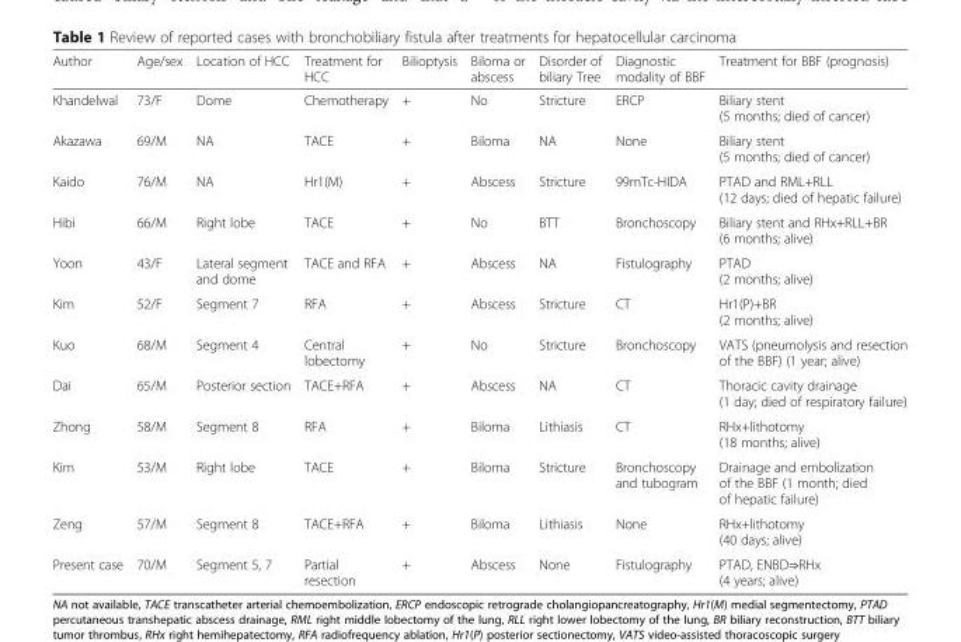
<table><thead><tr><td>Author</td><td>Age/sex</td><td>Location of HCC</td><td>Treatment for HCC</td><td>Bilioptysis</td><td>Biloma or abscess</td><td>Disorder of biliary Tree</td><td>Diagnostic modality of BBF</td><td>Treatment for BBF (prognosis)</td></tr></thead><tbody><tr><td>Khandelwal</td><td>73/F</td><td>Dome</td><td>Chemotherapy</td><td>+</td><td>No</td><td>Stricture</td><td>ERCP</td><td>Biliary stent (5 months; died of cancer)</td></tr><tr><td>Akazawa</td><td>69/M</td><td>NA</td><td>TACE</td><td>+</td><td>Biloma</td><td>NA</td><td>None</td><td>Biliary stent (5 months; died of cancer)</td></tr><tr><td>Kaido</td><td>76/M</td><td>NA</td><td>Hr1(M)</td><td>+</td><td>Abscess</td><td>Stricture</td><td>99mTc-HIDA</td><td>PTAD and RML+RLL (12 days; died of hepatic failure)</td></tr><tr><td>Hibi</td><td>66/M</td><td>Right lobe</td><td>TACE</td><td>+</td><td>No</td><td>BTT</td><td>Bronchoscopy</td><td>Biliary stent and RHx+RLL+BR (6 months; alive)</td></tr><tr><td>Yoon</td><td>43/F</td><td>Lateral segment and dome</td><td>TACE and RFA</td><td>+</td><td>Abscess</td><td>NA</td><td>Fistulography</td><td>PTAD (2 months; alive)</td></tr><tr><td>Kim</td><td>52/F</td><td>Segment 7</td><td>RFA</td><td>+</td><td>Abscess</td><td>Stricture</td><td>CT</td><td>Hr1(P)+BR (2 months; alive)</td></tr><tr><td>Kuo</td><td>68/M</td><td>Segment 4</td><td>Central lobectomy</td><td>+</td><td>No</td><td>Stricture</td><td>Bronchoscopy</td><td>VATS (pneumolysis and resection of the BBF) (1 year; alive)</td></tr><tr><td>Dai</td><td>65/M</td><td>Posterior section</td><td>TACE+RFA</td><td>+</td><td>Abscess</td><td>NA</td><td>CT</td><td>Thoracic cavity drainage (1 day; died of respiratory failure)</td></tr><tr><td>Zhong</td><td>58/M</td><td>Segment 8</td><td>RFA</td><td>+</td><td>Biloma</td><td>Lithiasis</td><td>CT</td><td>RHx+lithotomy (18 months; alive)</td></tr><tr><td>Kim</td><td>53/M</td><td>Right lobe</td><td>TACE</td><td>+</td><td>Biloma</td><td>Stricture</td><td>Bronchoscopy and tubogram</td><td>Drainage and embolization of the BBF (1 month; died of hepatic failure)</td></tr><tr><td>Zeng</td><td>57/M</td><td>Segment 8</td><td>TACE+RFA</td><td>+</td><td>Biloma</td><td>Lithiasis</td><td>None</td><td>RHx+lithotomy (40 days; alive)</td></tr><tr><td>Present case</td><td>70/M</td><td>Segment 5, 7</td><td>Partial resection</td><td>+</td><td>Abscess</td><td>None</td><td>Fistulography</td><td>PTAD, ENBD⇒RHx (4 years; alive)</td></tr></tbody></table>